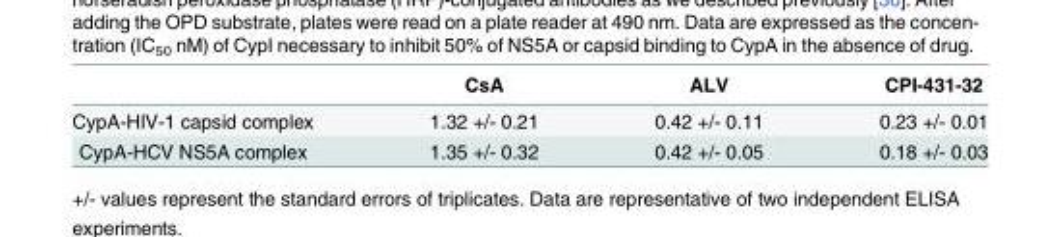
<table><thead><tr><td></td><td>CsA</td><td>ALV</td><td>CPI-431-32</td></tr></thead><tbody><tr><td>CypA-HIV-1 capsid complex</td><td>1.32 +/- 0.21</td><td>0.42 +/- 0.11</td><td>0.23 +/- 0.01</td></tr><tr><td>CypA-HCV NS5A complex</td><td>1.35 +/- 0.32</td><td>0.42 +/- 0.05</td><td>0.18 +/- 0.03</td></tr></tbody></table>